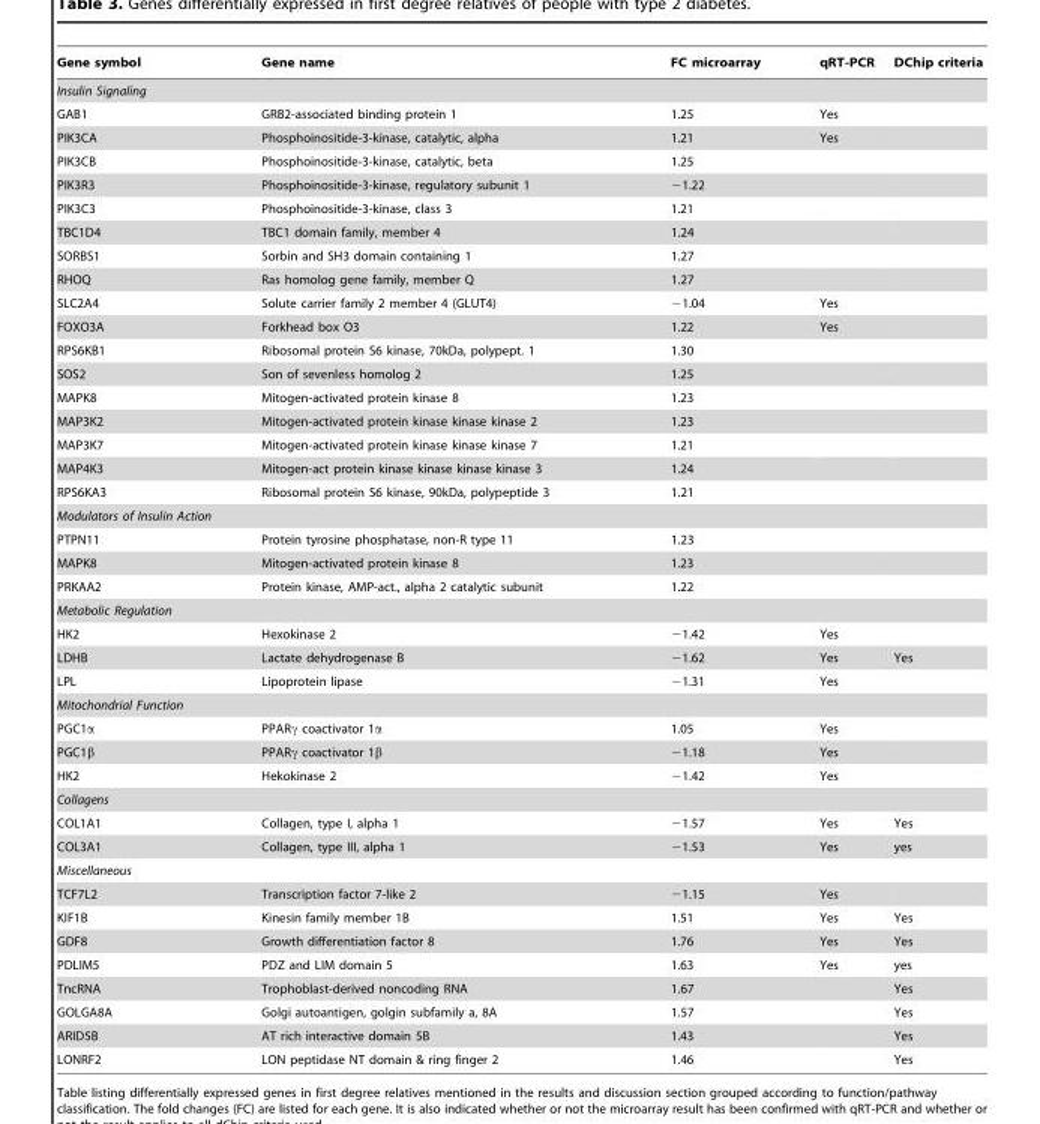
<table><thead><tr><td>Gene symbol</td><td>Gene name</td><td>FC microarray</td><td>qRT-PCR</td><td>DChip criteria</td></tr></thead><tbody><tr><td colspan="5">Insulin Signaling</td></tr><tr><td>GAB1</td><td>GRB2-associated binding protein 1</td><td>1.25</td><td>Yes</td><td></td></tr><tr><td>PIK3CA</td><td>Phosphoinositide-3-kinase, catalytic, alpha</td><td>1.21</td><td>Yes</td><td></td></tr><tr><td>PIK3CB</td><td>Phosphoinositide-3-kinase, catalytic, beta</td><td>1.25</td><td></td><td></td></tr><tr><td>PIK3R3</td><td>Phosphoinositide-3-kinase, regulatory subunit 1</td><td>−1.22</td><td></td><td></td></tr><tr><td>PIK3C3</td><td>Phosphoinositide-3-kinase, class 3</td><td>1.21</td><td></td><td></td></tr><tr><td>TBC1D4</td><td>TBC1 domain family, member 4</td><td>1.24</td><td></td><td></td></tr><tr><td>SORBS1</td><td>Sorbin and SH3 domain containing 1</td><td>1.27</td><td></td><td></td></tr><tr><td>RHOQ</td><td>Ras homolog gene family, member Q</td><td>1.27</td><td></td><td></td></tr><tr><td>SLC2A4</td><td>Solute carrier family 2 member 4 (GLUT4)</td><td>−1.04</td><td>Yes</td><td></td></tr><tr><td>FOXO3A</td><td>Forkhead box O3</td><td>1.22</td><td>Yes</td><td></td></tr><tr><td>RPS6KB1</td><td>Ribosomal protein S6 kinase, 70kDa, polypept. 1</td><td>1.30</td><td></td><td></td></tr><tr><td>SOS2</td><td>Son of sevenless homolog 2</td><td>1.25</td><td></td><td></td></tr><tr><td>MAPK8</td><td>Mitogen-activated protein kinase 8</td><td>1.23</td><td></td><td></td></tr><tr><td>MAP3K2</td><td>Mitogen-activated protein kinase kinase kinase 2</td><td>1.23</td><td></td><td></td></tr><tr><td>MAP3K7</td><td>Mitogen-activated protein kinase kinase kinase 7</td><td>1.21</td><td></td><td></td></tr><tr><td>MAP4K3</td><td>Mitogen-act protein kinase kinase kinase kinase 3</td><td>1.24</td><td></td><td></td></tr><tr><td>RPS6KA3</td><td>Ribosomal protein S6 kinase, 90kDa, polypeptide 3</td><td>1.21</td><td></td><td></td></tr><tr><td colspan="5">Modulators of Insulin Action</td></tr><tr><td>PTPN11</td><td>Protein tyrosine phosphatase, non-R type 11</td><td>1.23</td><td></td><td></td></tr><tr><td>MAPK8</td><td>Mitogen-activated protein kinase 8</td><td>1.23</td><td></td><td></td></tr><tr><td>PRKAA2</td><td>Protein kinase, AMP-act., alpha 2 catalytic subunit</td><td>1.22</td><td></td><td></td></tr><tr><td colspan="5">Metabolic Regulation</td></tr><tr><td>HK2</td><td>Hexokinase 2</td><td>−1.42</td><td>Yes</td><td></td></tr><tr><td>LDHB</td><td>Lactate dehydrogenase B</td><td>−1.62</td><td>Yes</td><td>Yes</td></tr><tr><td>LPL</td><td>Lipoprotein lipase</td><td>−1.31</td><td>Yes</td><td></td></tr><tr><td colspan="5">Mitochondrial Function</td></tr><tr><td>PGC1α</td><td>PPARγ coactivator 1α</td><td>1.05</td><td>Yes</td><td></td></tr><tr><td>PGC1β</td><td>PPARγ coactivator 1β</td><td>−1.18</td><td>Yes</td><td></td></tr><tr><td>HK2</td><td>Hekokinase 2</td><td>−1.42</td><td>Yes</td><td></td></tr><tr><td colspan="5">Collagens</td></tr><tr><td>COL1A1</td><td>Collagen, type I, alpha 1</td><td>−1.57</td><td>Yes</td><td>Yes</td></tr><tr><td>COL3A1</td><td>Collagen, type III, alpha 1</td><td>−1.53</td><td>Yes</td><td>yes</td></tr><tr><td colspan="5">Miscellaneous</td></tr><tr><td>TCF7L2</td><td>Transcription factor 7-like 2</td><td>−1.15</td><td>Yes</td><td></td></tr><tr><td>KIF1B</td><td>Kinesin family member 1B</td><td>1.51</td><td>Yes</td><td>Yes</td></tr><tr><td>GDF8</td><td>Growth differentiation factor 8</td><td>1.76</td><td>Yes</td><td>Yes</td></tr><tr><td>PDLIM5</td><td>PDZ and LIM domain 5</td><td>1.63</td><td>Yes</td><td>yes</td></tr><tr><td>TncRNA</td><td>Trophoblast-derived noncoding RNA</td><td>1.67</td><td></td><td>Yes</td></tr><tr><td>GOLGA8A</td><td>Golgi autoantigen, golgin subfamily a, 8A</td><td>1.57</td><td></td><td>Yes</td></tr><tr><td>ARID5B</td><td>AT rich interactive domain 5B</td><td>1.43</td><td></td><td>Yes</td></tr><tr><td>LONRF2</td><td>LON peptidase NT domain &amp; ring finger 2</td><td>1.46</td><td></td><td>Yes</td></tr></tbody></table>